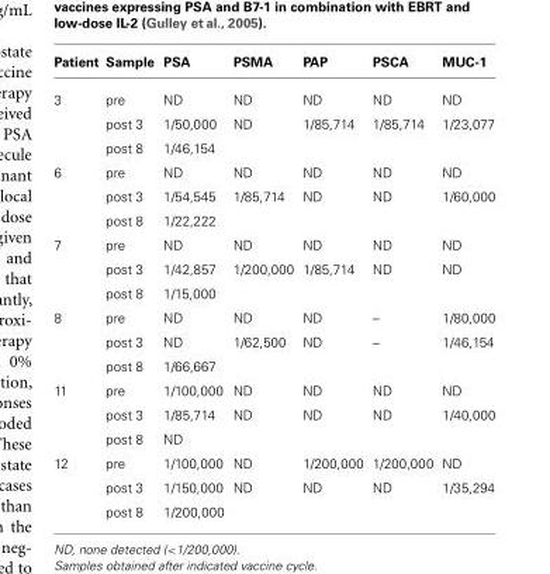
<table><thead><tr><td>Patient</td><td>Sample</td><td>PSA</td><td>PSMA</td><td>PAP</td><td>PSCA</td><td>MUC-1</td></tr></thead><tbody><tr><td rowspan="3">3</td><td>pre</td><td>ND</td><td>ND</td><td>ND</td><td>ND</td><td>ND</td></tr><tr><td>post 3</td><td>1/50,000</td><td>ND</td><td>1/85,714</td><td>1/85,714</td><td>1/23,077</td></tr><tr><td>post 8</td><td>1/46,154</td><td></td><td></td><td></td><td></td></tr><tr><td rowspan="3">6</td><td>pre</td><td>ND</td><td>ND</td><td>ND</td><td>ND</td><td>ND</td></tr><tr><td>post 3</td><td>1/54,545</td><td>1/85,714</td><td>ND</td><td>ND</td><td>1/60,000</td></tr><tr><td>post 8</td><td>1/22,222</td><td></td><td></td><td></td><td></td></tr><tr><td rowspan="3">7</td><td>pre</td><td>ND</td><td>ND</td><td>ND</td><td>ND</td><td>ND</td></tr><tr><td>post 3</td><td>1/42,857</td><td>1/200,000</td><td>1/85,714</td><td>ND</td><td>ND</td></tr><tr><td>post 8</td><td>1/15,000</td><td></td><td></td><td></td><td></td></tr><tr><td rowspan="3">8</td><td>pre</td><td>ND</td><td>ND</td><td>ND</td><td>–</td><td>1/80,000</td></tr><tr><td>post 3</td><td>ND</td><td>1/62,500</td><td>ND</td><td>–</td><td>1/46,154</td></tr><tr><td>post 8</td><td>1/66,667</td><td></td><td></td><td></td><td></td></tr><tr><td rowspan="3">11</td><td>pre</td><td>1/100,000</td><td>ND</td><td>ND</td><td>ND</td><td>ND</td></tr><tr><td>post 3</td><td>1/85,714</td><td>ND</td><td>ND</td><td>ND</td><td>1/40,000</td></tr><tr><td>post 8</td><td>ND</td><td></td><td></td><td></td><td></td></tr><tr><td rowspan="3">12</td><td>pre</td><td>1/100,000</td><td>ND</td><td>1/200,000</td><td>1/200,000</td><td>ND</td></tr><tr><td>post 3</td><td>1/150,000</td><td>ND</td><td>ND</td><td>ND</td><td>1/35,294</td></tr><tr><td>post 8</td><td>1/200,000</td><td></td><td></td><td></td><td></td></tr></tbody></table>